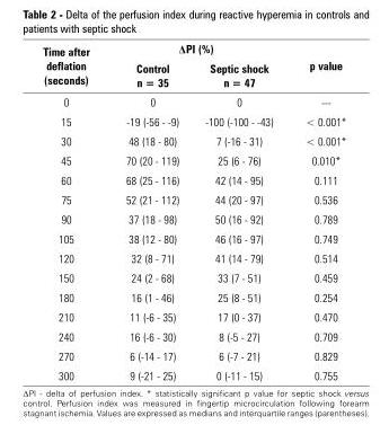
<table><thead><tr><td rowspan="2">Time after deflation (seconds)</td><td colspan="2">ΔPI (%)</td><td rowspan="2">p value</td></tr><tr><td>Control n = 35</td><td>Septic shock n = 47</td></tr></thead><tbody><tr><td>0</td><td>0</td><td>0</td><td>---</td></tr><tr><td>15</td><td>-19 (-56 - -9)</td><td>-100 (-100 - -43)</td><td>&lt; 0.001*</td></tr><tr><td>30</td><td>48 (18 - 80)</td><td>7 (-16 - 31)</td><td>&lt; 0.001*</td></tr><tr><td>45</td><td>70 (20 - 119)</td><td>25 (6 - 76)</td><td>0.010*</td></tr><tr><td>60</td><td>68 (25 - 116)</td><td>42 (14 - 95)</td><td>0.111</td></tr><tr><td>75</td><td>52 (21 - 112)</td><td>44 (20 - 97)</td><td>0.536</td></tr><tr><td>90</td><td>37 (18 - 98)</td><td>50 (16 - 92)</td><td>0.789</td></tr><tr><td>105</td><td>38 (12 - 80)</td><td>46 (16 - 97)</td><td>0.749</td></tr><tr><td>120</td><td>32 (8 - 71)</td><td>41 (14 - 79)</td><td>0.514</td></tr><tr><td>150</td><td>24 (2 - 68)</td><td>33 (7 - 51)</td><td>0.459</td></tr><tr><td>180</td><td>16 (1 - 46)</td><td>25 (8 - 51)</td><td>0.254</td></tr><tr><td>210</td><td>11 (-6 - 35)</td><td>17 (0 - 37)</td><td>0.470</td></tr><tr><td>240</td><td>16 (-6 - 30)</td><td>8 (-5 - 27)</td><td>0.709</td></tr><tr><td>270</td><td>6 (-14 - 17)</td><td>6 (-7 - 21)</td><td>0.829</td></tr><tr><td>300</td><td>9 (-21 - 25)</td><td>0 (-11 - 15)</td><td>0.755</td></tr></tbody></table>